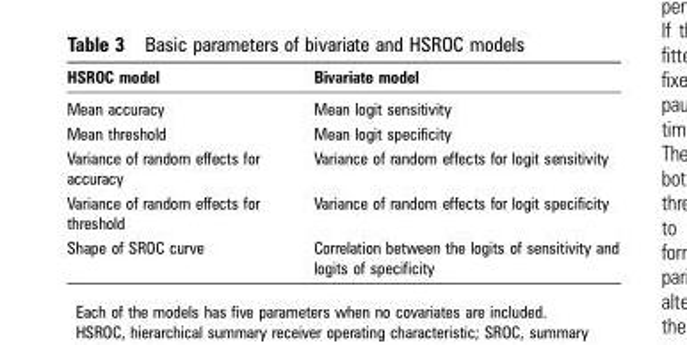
<table><thead><tr><td>HSROC model</td><td>Bivariate model</td></tr></thead><tbody><tr><td>Mean accuracy</td><td>Mean logit sensitivity</td></tr><tr><td>Mean threshold</td><td>Mean logit specificity</td></tr><tr><td>Variance of random effects for accuracy</td><td>Variance of random effects for logit sensitivity</td></tr><tr><td>Variance of random effects for threshold</td><td>Variance of random effects for logit specificity</td></tr><tr><td>Shape of SROC curve</td><td>Correlation between the logits of sensitivity and logits of specificity</td></tr></tbody></table>